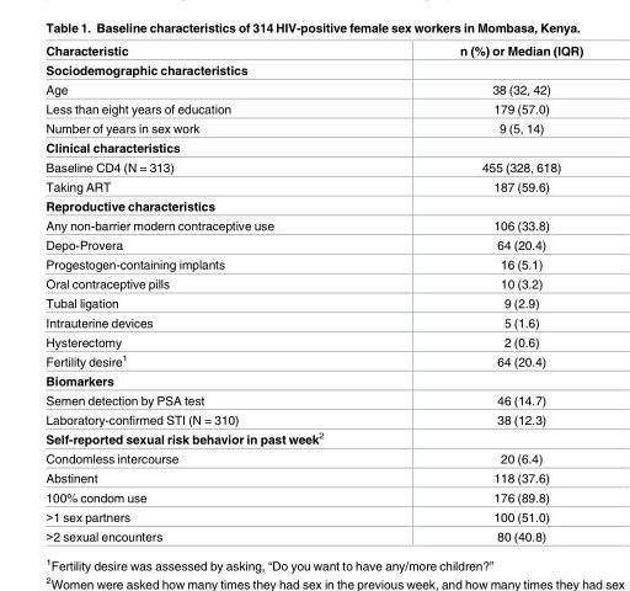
<table><thead><tr><td>Characteristic</td><td>n (%) or Median (IQR)</td></tr></thead><tbody><tr><td colspan="2">Sociodemographic characteristics</td></tr><tr><td>Age</td><td>38 (32, 42)</td></tr><tr><td>Less than eight years of education</td><td>179 (57.0)</td></tr><tr><td>Number of years in sex work</td><td>9 (5, 14)</td></tr><tr><td colspan="2">Clinical characteristics</td></tr><tr><td>Baseline CD4 (N = 313)</td><td>455 (328, 618)</td></tr><tr><td>Taking ART</td><td>187 (59.6)</td></tr><tr><td colspan="2">Reproductive characteristics</td></tr><tr><td>Any non-barrier modern contraceptive use</td><td>106 (33.8)</td></tr><tr><td>Depo-Provera</td><td>64 (20.4)</td></tr><tr><td>Progestogen-containing implants</td><td>16 (5.1)</td></tr><tr><td>Oral contraceptive pills</td><td>10 (3.2)</td></tr><tr><td>Tubal ligation</td><td>9 (2.9)</td></tr><tr><td>Intrauterine devices</td><td>5 (1.6)</td></tr><tr><td>Hysterectomy</td><td>2 (0.6)</td></tr><tr><td>Fertility desire<sup>1</sup></td><td>64 (20.4)</td></tr><tr><td colspan="2">Biomarkers</td></tr><tr><td>Semen detection by PSA test</td><td>46 (14.7)</td></tr><tr><td>Laboratory-confirmed STI (N = 310)</td><td>38 (12.3)</td></tr><tr><td colspan="2">Self-reported sexual risk behavior in past week<sup>2</sup></td></tr><tr><td>Condomless intercourse</td><td>20 (6.4)</td></tr><tr><td>Abstinent</td><td>118 (37.6)</td></tr><tr><td>100% condom use</td><td>176 (89.8)</td></tr><tr><td>&gt;1 sex partners</td><td>100 (51.0)</td></tr><tr><td>&gt;2 sexual encounters</td><td>80 (40.8)</td></tr></tbody></table>